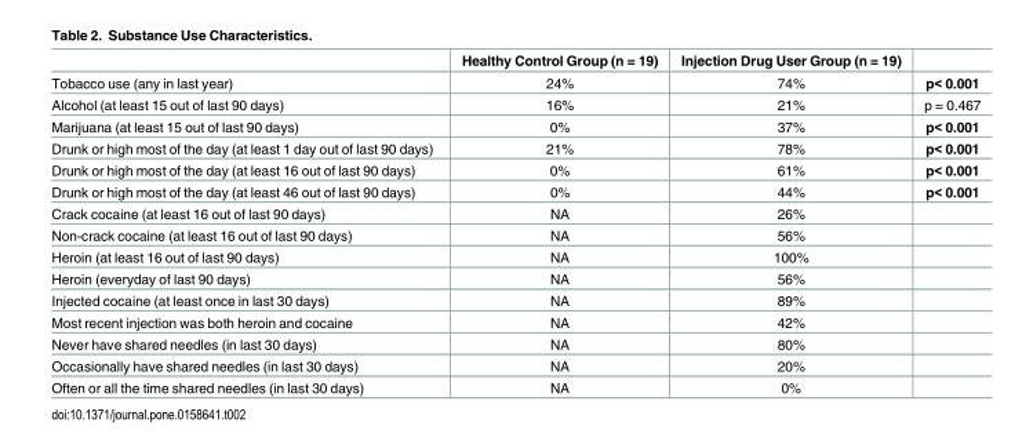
<table><thead><tr><td></td><td>Healthy Control Group (n = 19)</td><td>Injection Drug User Group (n = 19)</td><td></td></tr></thead><tbody><tr><td>Tobacco use (any in last year)</td><td>24%</td><td>74%</td><td>p&lt; 0.001</td></tr><tr><td>Alcohol (at least 15 out of last 90 days)</td><td>16%</td><td>21%</td><td>p = 0.467</td></tr><tr><td>Marijuana (at least 15 out of last 90 days)</td><td>0%</td><td>37%</td><td>p&lt; 0.001</td></tr><tr><td>Drunk or high most of the day (at least 1 day out of last 90 days)</td><td>21%</td><td>78%</td><td>p&lt; 0.001</td></tr><tr><td>Drunk or high most of the day (at least 16 out of last 90 days)</td><td>0%</td><td>61%</td><td>p&lt; 0.001</td></tr><tr><td>Drunk or high most of the day (at least 46 out of last 90 days)</td><td>0%</td><td>44%</td><td>p&lt; 0.001</td></tr><tr><td>Crack cocaine (at least 16 out of last 90 days)</td><td>NA</td><td>26%</td><td></td></tr><tr><td>Non-crack cocaine (at least 16 out of last 90 days)</td><td>NA</td><td>56%</td><td></td></tr><tr><td>Heroin (at least 16 out of last 90 days)</td><td>NA</td><td>100%</td><td></td></tr><tr><td>Heroin (everyday of last 90 days)</td><td>NA</td><td>56%</td><td></td></tr><tr><td>Injected cocaine (at least once in last 30 days)</td><td>NA</td><td>89%</td><td></td></tr><tr><td>Most recent injection was both heroin and cocaine</td><td>NA</td><td>42%</td><td></td></tr><tr><td>Never have shared needles (in last 30 days)</td><td>NA</td><td>80%</td><td></td></tr><tr><td>Occasionally have shared needles (in last 30 days)</td><td>NA</td><td>20%</td><td></td></tr><tr><td>Often or all the time shared needles (in last 30 days)</td><td>NA</td><td>0%</td><td></td></tr></tbody></table>